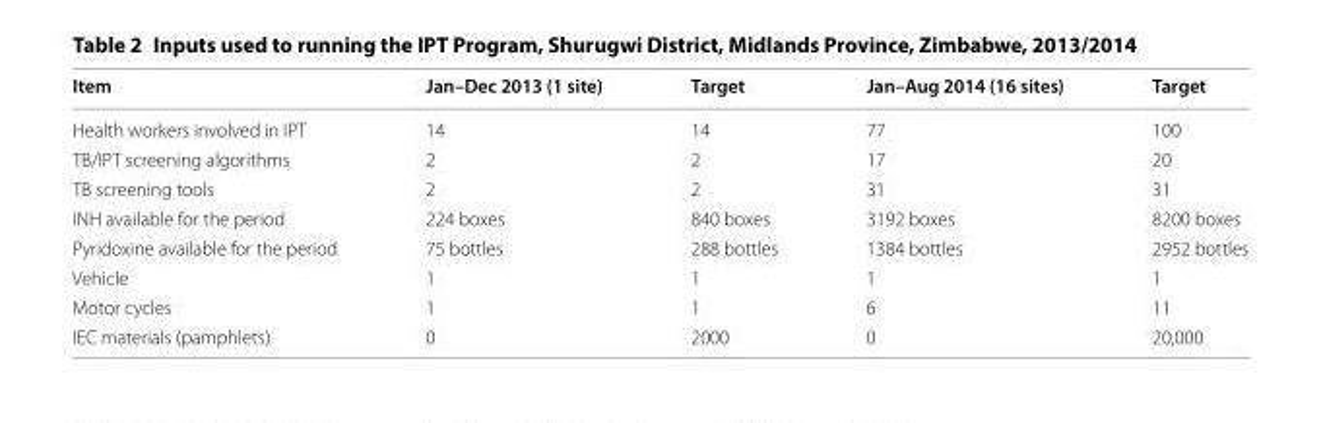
<table><thead><tr><td>Item</td><td>Jan–Dec 2013 (1 site)</td><td>Target</td><td>Jan–Aug 2014 (16 sites)</td><td>Target</td></tr></thead><tbody><tr><td>Health workers involved in IPT</td><td>14</td><td>14</td><td>77</td><td>100</td></tr><tr><td>TB/IPT screening algorithms</td><td>2</td><td>2</td><td>17</td><td>20</td></tr><tr><td>TB screening tools</td><td>2</td><td>2</td><td>31</td><td>31</td></tr><tr><td>INH available for the period</td><td>224 boxes</td><td>840 boxes</td><td>3192 boxes</td><td>8200 boxes</td></tr><tr><td>Pyridoxine available for the period</td><td>75 bottles</td><td>288 bottles</td><td>1384 bottles</td><td>2952 bottles</td></tr><tr><td>Vehicle</td><td>1</td><td>1</td><td>1</td><td>1</td></tr><tr><td>Motor cycles</td><td>1</td><td>1</td><td>6</td><td>11</td></tr><tr><td>IEC materials (pamphlets)</td><td>0</td><td>2000</td><td>0</td><td>20,000</td></tr></tbody></table>